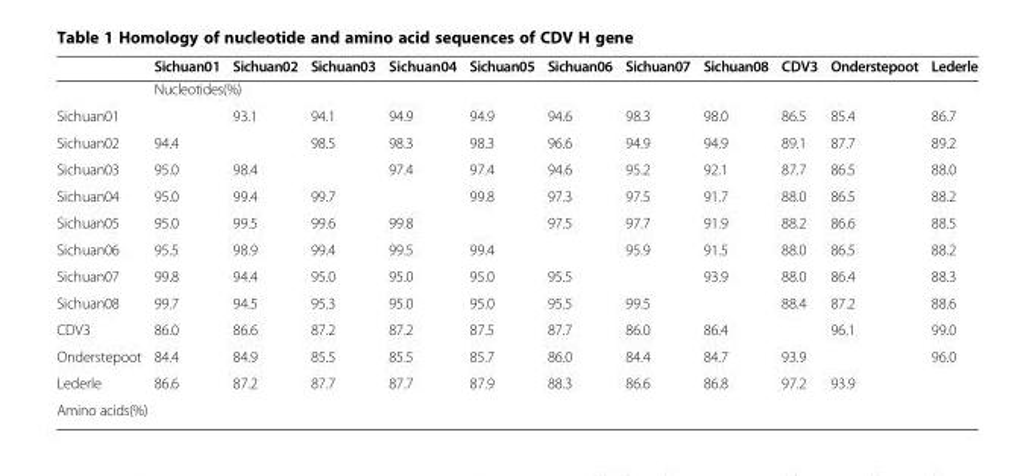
<table><thead><tr><td></td><td>Sichuan01</td><td>Sichuan02</td><td>Sichuan03</td><td>Sichuan04</td><td>Sichuan05</td><td>Sichuan06</td><td>Sichuan07</td><td>Sichuan08</td><td>CDV3</td><td>Onderstepoot</td><td>Lederle</td></tr></thead><tbody><tr><td></td><td colspan="3">Nucleotides(%)</td><td></td><td></td><td></td><td></td><td></td><td></td><td></td><td></td></tr><tr><td>Sichuan01</td><td></td><td>93.1</td><td>94.1</td><td>94.9</td><td>94.9</td><td>94.6</td><td>98.3</td><td>98.0</td><td>86.5</td><td>85.4</td><td>86.7</td></tr><tr><td>Sichuan02</td><td>94.4</td><td></td><td>98.5</td><td>98.3</td><td>98.3</td><td>96.6</td><td>94.9</td><td>94.9</td><td>89.1</td><td>87.7</td><td>89.2</td></tr><tr><td>Sichuan03</td><td>95.0</td><td>98.4</td><td></td><td>97.4</td><td>97.4</td><td>94.6</td><td>95.2</td><td>92.1</td><td>87.7</td><td>86.5</td><td>88.0</td></tr><tr><td>Sichuan04</td><td>95.0</td><td>99.4</td><td>99.7</td><td></td><td>99.8</td><td>97.3</td><td>97.5</td><td>91.7</td><td>88.0</td><td>86.5</td><td>88.2</td></tr><tr><td>Sichuan05</td><td>95.0</td><td>99.5</td><td>99.6</td><td>99.8</td><td></td><td>97.5</td><td>97.7</td><td>91.9</td><td>88.2</td><td>86.6</td><td>88.5</td></tr><tr><td>Sichuan06</td><td>95.5</td><td>98.9</td><td>99.4</td><td>99.5</td><td>99.4</td><td></td><td>95.9</td><td>91.5</td><td>88.0</td><td>86.5</td><td>88.2</td></tr><tr><td>Sichuan07</td><td>99.8</td><td>94.4</td><td>95.0</td><td>95.0</td><td>95.0</td><td>95.5</td><td></td><td>93.9</td><td>88.0</td><td>86.4</td><td>88.3</td></tr><tr><td>Sichuan08</td><td>99.7</td><td>94.5</td><td>95.3</td><td>95.0</td><td>95.0</td><td>95.5</td><td>99.5</td><td></td><td>88.4</td><td>87.2</td><td>88.6</td></tr><tr><td>CDV3</td><td>86.0</td><td>86.6</td><td>87.2</td><td>87.2</td><td>87.5</td><td>87.7</td><td>86.0</td><td>86.4</td><td></td><td>96.1</td><td>99.0</td></tr><tr><td>Onderstepoot</td><td>84.4</td><td>84.9</td><td>85.5</td><td>85.5</td><td>85.7</td><td>86.0</td><td>84.4</td><td>84.7</td><td>93.9</td><td></td><td>96.0</td></tr><tr><td>Lederle</td><td>86.6</td><td>87.2</td><td>87.7</td><td>87.7</td><td>87.9</td><td>88.3</td><td>86.6</td><td>86.8</td><td>97.2</td><td>93.9</td><td></td></tr><tr><td colspan="2">Amino acids(%)</td><td></td><td></td><td></td><td></td><td></td><td></td><td></td><td></td><td></td><td></td></tr></tbody></table>